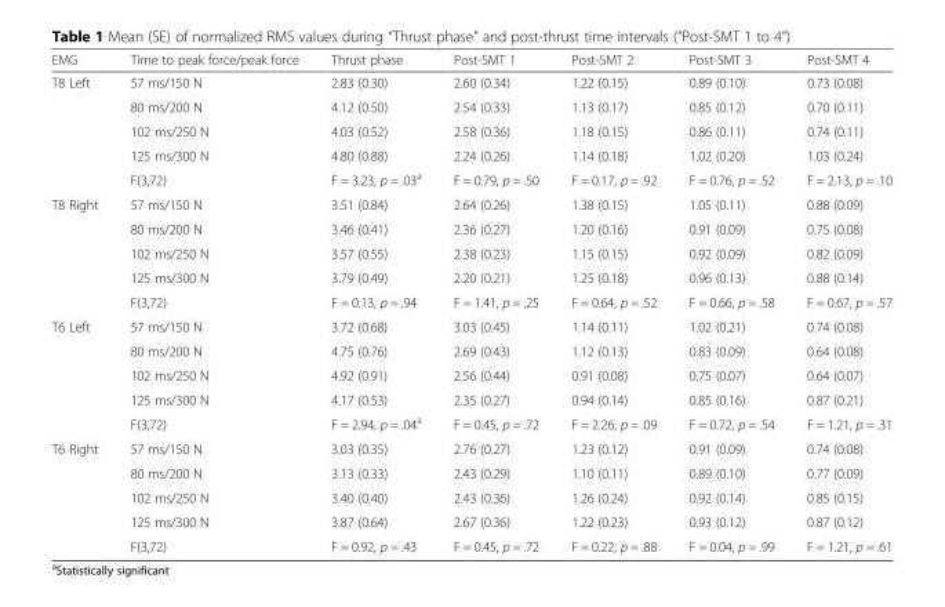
<table><thead><tr><td>EMG</td><td>Time to peak force/peak force</td><td>Thrust phase</td><td>Post-SMT 1</td><td>Post-SMT 2</td><td>Post-SMT 3</td><td>Post-SMT 4</td></tr></thead><tbody><tr><td rowspan="5">T8 Left</td><td>57 ms/150 N</td><td>2.83 (0.30)</td><td>2.60 (0.34)</td><td>1.22 (0.15)</td><td>0.89 (0.10)</td><td>0.73 (0.08)</td></tr><tr><td>80 ms/200 N</td><td>4.12 (0.50)</td><td>2.54 (0.33)</td><td>1.13 (0.17)</td><td>0.85 (0.12)</td><td>0.70 (0.11)</td></tr><tr><td>102 ms/250 N</td><td>4.03 (0.52)</td><td>2.58 (0.36)</td><td>1.18 (0.15)</td><td>0.86 (0.11)</td><td>0.74 (0.11)</td></tr><tr><td>125 ms/300 N</td><td>4.80 (0.88)</td><td>2.24 (0.26)</td><td>1.14 (0.18)</td><td>1.02 (0.20)</td><td>1.03 (0.24)</td></tr><tr><td>F(3,72)</td><td>F = 3.23, p = .03<sup>a</sup></td><td>F = 0.79, p = .50</td><td>F = 0.17, p = .92</td><td>F = 0.76, p = .52</td><td>F = 2.13, p = .10</td></tr><tr><td rowspan="5">T8 Right</td><td>57 ms/150 N</td><td>3.51 (0.84)</td><td>2.64 (0.26)</td><td>1.38 (0.15)</td><td>1.05 (0.11)</td><td>0.88 (0.09)</td></tr><tr><td>80 ms/200 N</td><td>3.46 (0.41)</td><td>2.36 (0.27)</td><td>1.20 (0.16)</td><td>0.91 (0.09)</td><td>0.75 (0.08)</td></tr><tr><td>102 ms/250 N</td><td>3.57 (0.55)</td><td>2.38 (0.23)</td><td>1.15 (0.15)</td><td>0.92 (0.09)</td><td>0.82 (0.09)</td></tr><tr><td>125 ms/300 N</td><td>3.79 (0.49)</td><td>2.20 (0.21)</td><td>1.25 (0.18)</td><td>0.96 (0.13)</td><td>0.88 (0.14)</td></tr><tr><td>F(3,72)</td><td>F = 0.13, p = .94</td><td>F = 1.41, p = .25</td><td>F = 0.64, p = .52</td><td>F = 0.66, p = .58</td><td>F = 0.67, p = .57</td></tr><tr><td rowspan="5">T6 Left</td><td>57 ms/150 N</td><td>3.72 (0.68)</td><td>3.03 (0.45)</td><td>1.14 (0.11)</td><td>1.02 (0.21)</td><td>0.74 (0.08)</td></tr><tr><td>80 ms/200 N</td><td>4.75 (0.76)</td><td>2.69 (0.43)</td><td>1.12 (0.13)</td><td>0.83 (0.09)</td><td>0.64 (0.08)</td></tr><tr><td>102 ms/250 N</td><td>4.92 (0.91)</td><td>2.56 (0.44)</td><td>0.91 (0.08)</td><td>0.75 (0.07)</td><td>0.64 (0.07)</td></tr><tr><td>125 ms/300 N</td><td>4.17 (0.53)</td><td>2.35 (0.27)</td><td>0.94 (0.14)</td><td>0.85 (0.16)</td><td>0.87 (0.21)</td></tr><tr><td>F(3,72)</td><td>F = 2.94, p = .04<sup>a</sup></td><td>F = 0.45, p = .72</td><td>F = 2.26, p = .09</td><td>F = 0.72, p = .54</td><td>F = 1.21, p = .31</td></tr><tr><td rowspan="5">T6 Right</td><td>57 ms/150 N</td><td>3.03 (0.35)</td><td>2.76 (0.27)</td><td>1.23 (0.12)</td><td>0.91 (0.09)</td><td>0.74 (0.08)</td></tr><tr><td>80 ms/200 N</td><td>3.13 (0.33)</td><td>2.43 (0.29)</td><td>1.10 (0.11)</td><td>0.89 (0.10)</td><td>0.77 (0.09)</td></tr><tr><td>102 ms/250 N</td><td>3.40 (0.40)</td><td>2.43 (0.36)</td><td>1.26 (0.24)</td><td>0.92 (0.14)</td><td>0.85 (0.15)</td></tr><tr><td>125 ms/300 N</td><td>3.87 (0.64)</td><td>2.67 (0.36)</td><td>1.22 (0.23)</td><td>0.93 (0.12)</td><td>0.87 (0.12)</td></tr><tr><td>F(3,72)</td><td>F = 0.92, p = .43</td><td>F = 0.45, p = .72</td><td>F = 0.22, p = .88</td><td>F = 0.04, p = .99</td><td>F = 1.21, p = .61</td></tr></tbody></table>